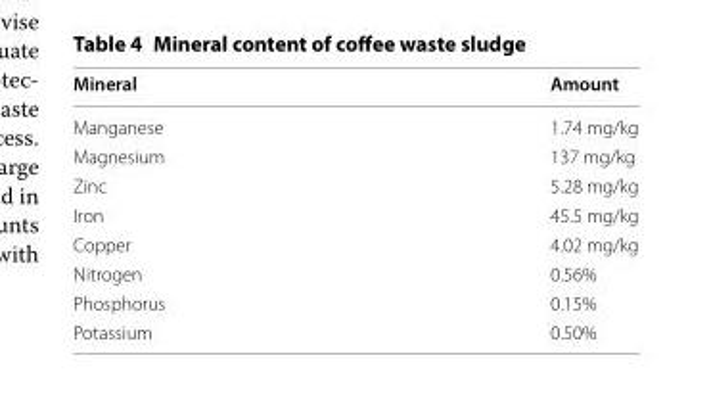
<table><thead><tr><td>Mineral</td><td>Amount</td></tr></thead><tbody><tr><td>Manganese</td><td>1.74 mg/kg</td></tr><tr><td>Magnesium</td><td>137 mg/kg</td></tr><tr><td>Zinc</td><td>5.28 mg/kg</td></tr><tr><td>Iron</td><td>45.5 mg/kg</td></tr><tr><td>Copper</td><td>4.02 mg/kg</td></tr><tr><td>Nitrogen</td><td>0.56%</td></tr><tr><td>Phosphorus</td><td>0.15%</td></tr><tr><td>Potassium</td><td>0.50%</td></tr></tbody></table>